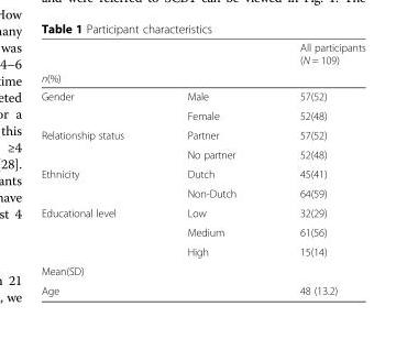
<table><thead><tr><td rowspan="2">n(%)</td><td rowspan="2"></td><td rowspan="2">All participants (N = 109)</td></tr><tr></tr></thead><tbody><tr><td rowspan="2">Gender</td><td>Male</td><td>57(52)</td></tr><tr><td>Female</td><td>52(48)</td></tr><tr><td rowspan="2">Relationship status</td><td>Partner</td><td>57(52)</td></tr><tr><td>No partner</td><td>52(48)</td></tr><tr><td rowspan="2">Ethnicity</td><td>Dutch</td><td>45(41)</td></tr><tr><td>Non-Dutch</td><td>64(59)</td></tr><tr><td rowspan="3">Educational level</td><td>Low</td><td>32(29)</td></tr><tr><td>Medium</td><td>61(56)</td></tr><tr><td>High</td><td>15(14)</td></tr><tr><td colspan="3">Mean(SD)</td></tr><tr><td>Age</td><td></td><td>48 (13.2)</td></tr></tbody></table>